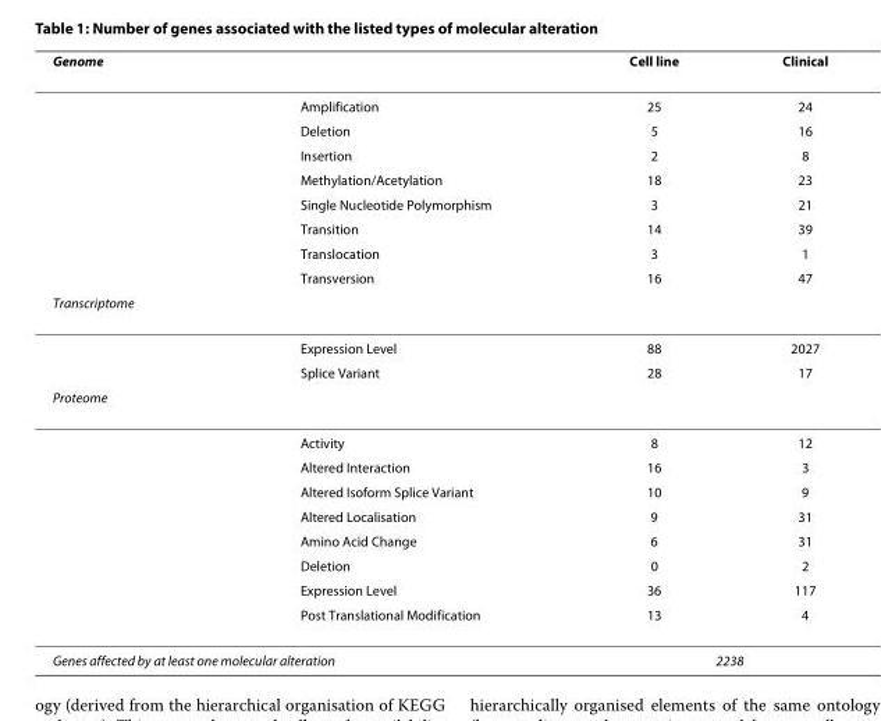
<table><thead><tr><td colspan="2">Genome</td><td rowspan="2">Cell line 25</td><td rowspan="2">Clinical 24</td></tr><tr><td></td><td>Amplification</td></tr></thead><tbody><tr><td></td><td>Deletion</td><td>5</td><td>16</td></tr><tr><td></td><td>Insertion</td><td>2</td><td>8</td></tr><tr><td></td><td>Methylation/Acetylation</td><td>18</td><td>23</td></tr><tr><td></td><td>Single Nucleotide Polymorphism</td><td>3</td><td>21</td></tr><tr><td></td><td>Transition</td><td>14</td><td>39</td></tr><tr><td></td><td>Translocation</td><td>3</td><td>1</td></tr><tr><td></td><td>Transversion</td><td>16</td><td>47</td></tr><tr><td colspan="4">Transcriptome</td></tr><tr><td></td><td>Expression Level</td><td>88</td><td>2027</td></tr><tr><td></td><td>Splice Variant</td><td>28</td><td>17</td></tr><tr><td colspan="4">Proteome</td></tr><tr><td></td><td>Activity</td><td>8</td><td>12</td></tr><tr><td></td><td>Altered Interaction</td><td>16</td><td>3</td></tr><tr><td></td><td>Altered Isoform Splice Variant</td><td>10</td><td>9</td></tr><tr><td></td><td>Altered Localisation</td><td>9</td><td>31</td></tr><tr><td></td><td>Amino Acid Change</td><td>6</td><td>31</td></tr><tr><td></td><td>Deletion</td><td>0</td><td>2</td></tr><tr><td></td><td>Expression Level</td><td>36</td><td>117</td></tr><tr><td></td><td>Post Translational Modification</td><td>13</td><td>4</td></tr><tr><td colspan="2">Genes affected by at least one molecular alteration</td><td colspan="2">2238</td></tr></tbody></table>